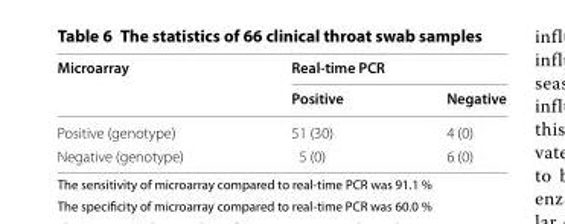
<table><thead><tr><td rowspan="2">Microarray</td><td colspan="2">Real‑time PCR</td></tr><tr><td>Positive</td><td>Negative</td></tr></thead><tbody><tr><td>Positive (genotype)</td><td>51 (30)</td><td>4 (0)</td></tr><tr><td>Negative (genotype)</td><td>5 (0)</td><td>6 (0)</td></tr></tbody></table>